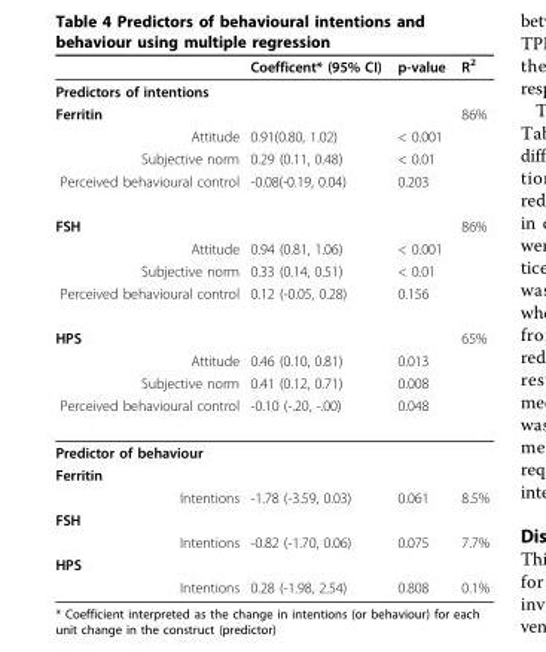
<table><thead><tr><td></td><td>Coefficent* (95% CI)</td><td>p-value</td><td>R<sup>2</sup></td></tr></thead><tbody><tr><td colspan="4">Predictors of intentions</td></tr><tr><td>Ferritin</td><td></td><td></td><td>86%</td></tr><tr><td>Attitude</td><td>0.91(0.80, 1.02)</td><td>&lt; 0.001</td><td></td></tr><tr><td>Subjective norm</td><td>0.29 (0.11, 0.48)</td><td>&lt; 0.01</td><td></td></tr><tr><td>Perceived behavioural control</td><td>-0.08(-0.19, 0.04)</td><td>0.203</td><td></td></tr><tr><td>FSH</td><td></td><td></td><td>86%</td></tr><tr><td>Attitude</td><td>0.94 (0.81, 1.06)</td><td>&lt; 0.001</td><td></td></tr><tr><td>Subjective norm</td><td>0.33 (0.14, 0.51)</td><td>&lt; 0.01</td><td></td></tr><tr><td>Perceived behavioural control</td><td>0.12 (-0.05, 0.28)</td><td>0.156</td><td></td></tr><tr><td>HPS</td><td></td><td></td><td>65%</td></tr><tr><td>Attitude</td><td>0.46 (0.10, 0.81)</td><td>0.013</td><td></td></tr><tr><td>Subjective norm</td><td>0.41 (0.12, 0.71)</td><td>0.008</td><td></td></tr><tr><td>Perceived behavioural control</td><td>-0.10 (-.20, -.00)</td><td>0.048</td><td></td></tr><tr><td colspan="4">Predictor of behaviour</td></tr><tr><td colspan="4">Ferritin</td></tr><tr><td>Intentions</td><td>-1.78 (-3.59, 0.03)</td><td>0.061</td><td>8.5%</td></tr><tr><td colspan="4">FSH</td></tr><tr><td>Intentions</td><td>-0.82 (-1.70, 0.06)</td><td>0.075</td><td>7.7%</td></tr><tr><td colspan="4">HPS</td></tr><tr><td>Intentions</td><td>0.28 (-1.98, 2.54)</td><td>0.808</td><td>0.1%</td></tr></tbody></table>